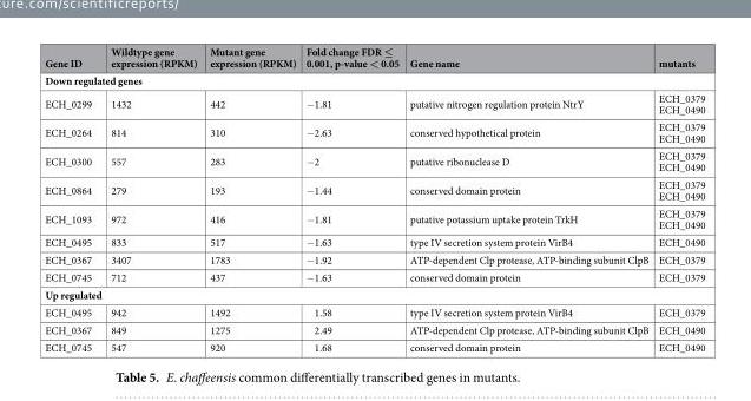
<table><thead><tr><td>Gene ID</td><td>Wildtype gene expression (RPKM)</td><td>Mutant gene expression (RPKM)</td><td>Fold change FDR ≤ 0.001, p-value &lt; 0.05</td><td>Gene name</td><td>mutants</td></tr></thead><tbody><tr><td colspan="6">Down regulated genes</td></tr><tr><td>ECH_0299</td><td>1432</td><td>442</td><td>−1.81</td><td>putative nitrogen regulation protein NtrY</td><td>ECH_0379 ECH_0490</td></tr><tr><td>ECH_0264</td><td>814</td><td>310</td><td>−2.63</td><td>conserved hypothetical protein</td><td>ECH_0379 ECH_0490</td></tr><tr><td>ECH_0300</td><td>557</td><td>283</td><td>−2</td><td>putative ribonuclease D</td><td>ECH_0379 ECH_0490</td></tr><tr><td>ECH_0864</td><td>279</td><td>193</td><td>−1.44</td><td>conserved domain protein</td><td>ECH_0379 ECH_0490</td></tr><tr><td>ECH_1093</td><td>972</td><td>416</td><td>−1.81</td><td>putative potassium uptake protein TrkH</td><td>ECH_0379 ECH_0490</td></tr><tr><td>ECH_0495</td><td>833</td><td>517</td><td>−1.63</td><td>type IV secretion system protein VirB4</td><td>ECH_0490</td></tr><tr><td>ECH_0367</td><td>3407</td><td>1783</td><td>−1.92</td><td>ATP-dependent Clp protease, ATP-binding subunit ClpB</td><td>ECH_0379</td></tr><tr><td>ECH_0745</td><td>712</td><td>437</td><td>−1.63</td><td>conserved domain protein</td><td>ECH_0379</td></tr><tr><td colspan="6">Up regulated</td></tr><tr><td>ECH_0495</td><td>942</td><td>1492</td><td>1.58</td><td>type IV secretion system protein VirB4</td><td>ECH_0379</td></tr><tr><td>ECH_0367</td><td>849</td><td>1275</td><td>2.49</td><td>ATP-dependent Clp protease, ATP-binding subunit ClpB</td><td>ECH_0490</td></tr><tr><td>ECH_0745</td><td>547</td><td>920</td><td>1.68</td><td>conserved domain protein</td><td>ECH_0490</td></tr></tbody></table>